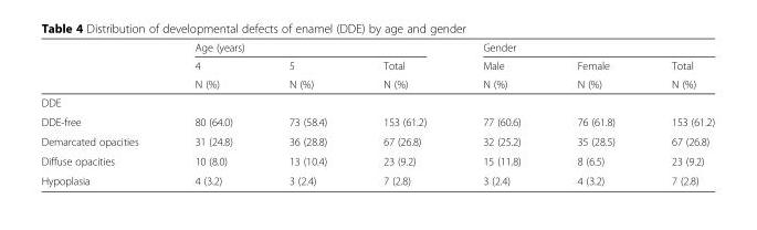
<table><thead><tr><td rowspan="3"></td><td colspan="3">Age (years)</td><td colspan="3">Gender</td></tr><tr><td rowspan="2">4 N (%)</td><td rowspan="2">5 N (%)</td><td rowspan="2">Total N (%)</td><td rowspan="2">Male N (%)</td><td rowspan="2">Female N (%)</td><td rowspan="2">Total N (%)</td></tr><tr></tr></thead><tbody><tr><td colspan="7">DDE</td></tr><tr><td>DDE-free</td><td>80 (64.0)</td><td>73 (58.4)</td><td>153 (61.2)</td><td>77 (60.6)</td><td>76 (61.8)</td><td>153 (61.2)</td></tr><tr><td>Demarcated opacities</td><td>31 (24.8)</td><td>36 (28.8)</td><td>67 (26.8)</td><td>32 (25.2)</td><td>35 (28.5)</td><td>67 (26.8)</td></tr><tr><td>Diffuse opacities</td><td>10 (8.0)</td><td>13 (10.4)</td><td>23 (9.2)</td><td>15 (11.8)</td><td>8 (6.5)</td><td>23 (9.2)</td></tr><tr><td>Hypoplasia</td><td>4 (3.2)</td><td>3 (2.4)</td><td>7 (2.8)</td><td>3 (2.4)</td><td>4 (3.2)</td><td>7 (2.8)</td></tr></tbody></table>